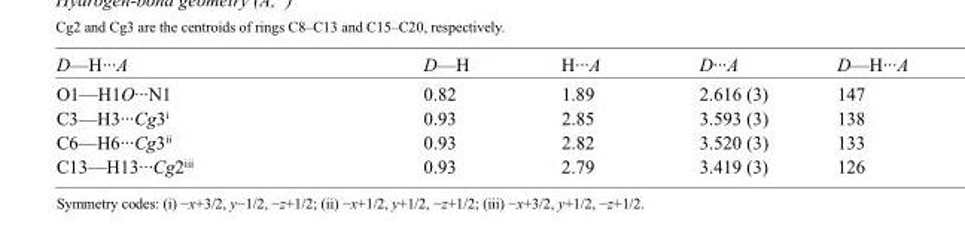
<table><tbody><tr><td>D—H···A</td><td>D—H</td><td>H···A</td><td>D···A</td><td>D—H···A</td></tr><tr><td>O1—H1O···N1</td><td>0.82</td><td>1.89</td><td>2.616 (3)</td><td>147</td></tr><tr><td>C3—H3···Cg3<sup>i</sup></td><td>0.93</td><td>2.85</td><td>3.593 (3)</td><td>138</td></tr><tr><td>C6—H6···Cg3<sup>ii</sup></td><td>0.93</td><td>2.82</td><td>3.520 (3)</td><td>133</td></tr><tr><td>C13—H13···Cg2<sup>iii</sup></td><td>0.93</td><td>2.79</td><td>3.419 (3)</td><td>126</td></tr></tbody></table>